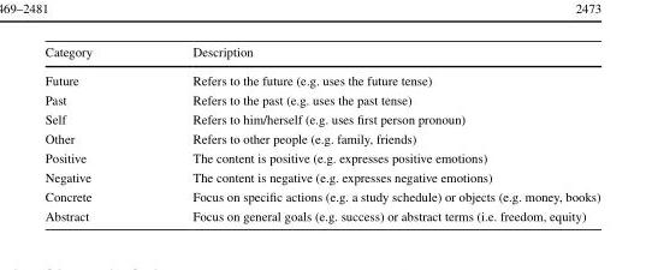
<table><thead><tr><td>Category</td><td>Description</td></tr></thead><tbody><tr><td>Future</td><td>Refers to the future (e.g. uses the future tense)</td></tr><tr><td>Past</td><td>Refers to the past (e.g. uses the past tense)</td></tr><tr><td>Self</td><td>Refers to him/herself (e.g. uses first person pronoun)</td></tr><tr><td>Other</td><td>Refers to other people (e.g. family, friends)</td></tr><tr><td>Positive</td><td>The content is positive (e.g. expresses positive emotions)</td></tr><tr><td>Negative</td><td>The content is negative (e.g. expresses negative emotions)</td></tr><tr><td>Concrete</td><td>Focus on specific actions (e.g. a study schedule) or objects (e.g. money, books)</td></tr><tr><td>Abstract</td><td>Focus on general goals (e.g. success) or abstract terms (i.e. freedom, equity)</td></tr></tbody></table>